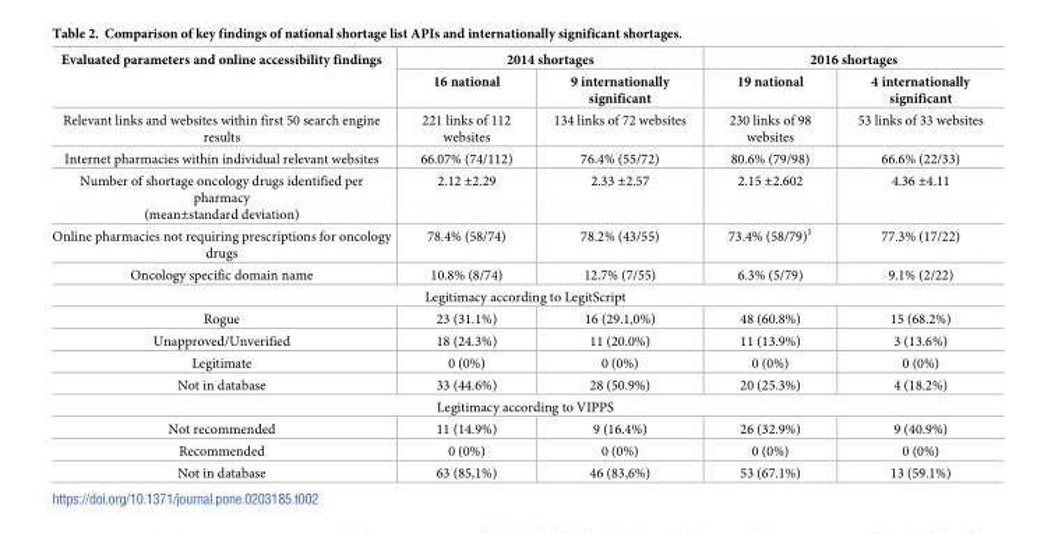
<table><thead><tr><td rowspan="2">Evaluated parameters and online accessibility findings</td><td colspan="2">2014 shortages</td><td colspan="2">2016 shortages</td></tr><tr><td>16 national</td><td>9 internationally significant</td><td>19 national</td><td>4 internationally significant</td></tr></thead><tbody><tr><td>Relevant links and websites within first 50 search engine results</td><td>221 links of 112 websites</td><td>134 links of 72 websites</td><td>230 links of 98 websites</td><td>53 links of 33 websites</td></tr><tr><td>Internet pharmacies within individual relevant websites</td><td>66.07% (74/112)</td><td>76.4% (55/72)</td><td>80.6% (79/98)</td><td>66.6% (22/33)</td></tr><tr><td>Number of shortage oncology drugs identified per pharmacy (mean±standard deviation)</td><td>2.12 ±2.29</td><td>2.33 ±2.57</td><td>2.15 ±2.602</td><td>4.36 ±4.11</td></tr><tr><td>Online pharmacies not requiring prescriptions for oncology drugs</td><td>78.4% (58/74)</td><td>78.2% (43/55)</td><td>73.4% (58/79)<sup>1</sup></td><td>77.3% (17/22)</td></tr><tr><td>Oncology specific domain name</td><td>10.8% (8/74)</td><td>12.7% (7/55)</td><td>6.3% (5/79)</td><td>9.1% (2/22)</td></tr><tr><td colspan="5">Legitimacy according to LegitScript</td></tr><tr><td>Rogue</td><td>23 (31.1%)</td><td>16 (29.1,0%)</td><td>48 (60.8%)</td><td>15 (68.2%)</td></tr><tr><td>Unapproved/Unverified</td><td>18 (24.3%)</td><td>11 (20.0%)</td><td>11 (13.9%)</td><td>3 (13.6%)</td></tr><tr><td>Legitimate</td><td>0 (0%)</td><td>0 (0%)</td><td>0 (0%)</td><td>0 (0%)</td></tr><tr><td>Not in database</td><td>33 (44.6%)</td><td>28 (50.9%)</td><td>20 (25.3%)</td><td>4 (18.2%)</td></tr><tr><td colspan="5">Legitimacy according to VIPPS</td></tr><tr><td>Not recommended</td><td>11 (14.9%)</td><td>9 (16.4%)</td><td>26 (32.9%)</td><td>9 (40.9%)</td></tr><tr><td>Recommended</td><td>0 (0%)</td><td>0 (0%)</td><td>0 (0%)</td><td>0 (0%)</td></tr><tr><td>Not in database</td><td>63 (85,1%)</td><td>46 (83,6%)</td><td>53 (67.1%)</td><td>13 (59.1%)</td></tr></tbody></table>